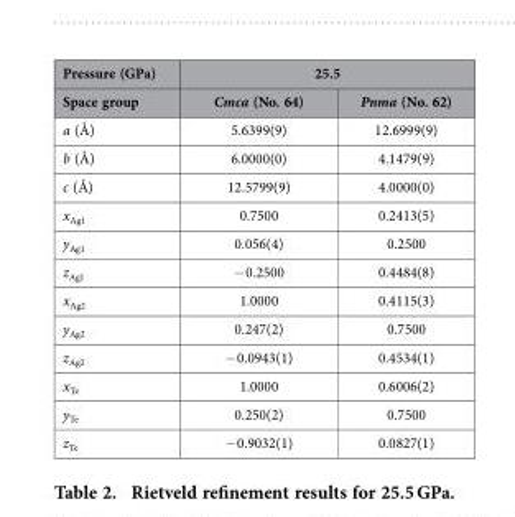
<table><thead><tr><td rowspan="2">Pressure (GPa) Space group</td><td colspan="2">25.5</td></tr><tr><td>Cmca (No. 64)</td><td>Pnma (No. 62)</td></tr></thead><tbody><tr><td>a (Å)</td><td>5.6399(9)</td><td>12.6999(9)</td></tr><tr><td>b (Å)</td><td>6.0000(0)</td><td>4.1479(9)</td></tr><tr><td>c (Å)</td><td>12.5799(9)</td><td>4.0000(0)</td></tr><tr><td>x<sub>Ag1</sub></td><td>0.7500</td><td>0.2413(5)</td></tr><tr><td>y<sub>Ag1</sub></td><td>0.056(4)</td><td>0.2500</td></tr><tr><td>z<sub>Ag1</sub></td><td>− 0.2500</td><td>0.4484(8)</td></tr><tr><td>x<sub>Ag2</sub></td><td>1.0000</td><td>0.4115(3)</td></tr><tr><td>y<sub>Ag2</sub></td><td>0.247(2)</td><td>0.7500</td></tr><tr><td>z<sub>Ag2</sub></td><td>− 0.0943(1)</td><td>0.4534(1)</td></tr><tr><td>x<sub>Te</sub></td><td>1.0000</td><td>0.6006(2)</td></tr><tr><td>y<sub>Te</sub></td><td>0.250(2)</td><td>0.7500</td></tr><tr><td>z<sub>Te</sub></td><td>− 0.9032(1)</td><td>0.0827(1)</td></tr></tbody></table>